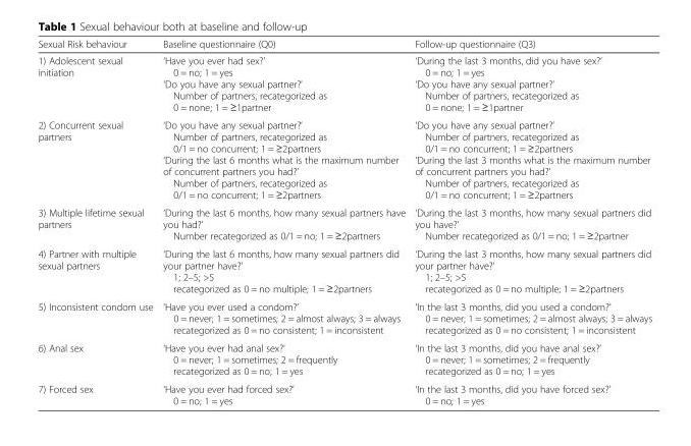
<table><thead><tr><td>Sexual Risk behaviour</td><td>Baseline questionnaire (Q0)</td><td>Follow-up questionnaire (Q3)</td></tr></thead><tbody><tr><td>1) Adolescent sexual initiation</td><td>‘Have you ever had sex?’ 0 = no; 1 = yes ‘Do you have any sexual partner?’ Number of partners, recategorized as 0 = none; 1 = ≥1partner</td><td>‘During the last 3 months, did you have sex?’ 0 = no; 1 = yes ‘Do you have any sexual partner?’ Number of partners, recategorized as 0 = none; 1 = ≥1partner</td></tr><tr><td>2) Concurrent sexual partners</td><td>‘Do you have any sexual partner?’ Number of partners, recategorized as 0/1 = no concurrent; 1 = ≥2partners ‘During the last 6 months what is the maximum number of concurrent partners you had?’ Number of partners, recategorized as 0/1 = no concurrent; 1 = ≥2partners</td><td>‘Do you have any sexual partner?’ Number of partners, recategorized as 0/1 = no concurrent; 1 = ≥2partners ‘During the last 3 months what is the maximum number of concurrent partners you had?’ Number of partners, recategorized as 0/1 = no concurrent; 1 = ≥2partners</td></tr><tr><td>3) Multiple lifetime sexual partners</td><td>‘During the last 6 months, how many sexual partners have you had?’ Number recategorized as 0/1 = no; 1 = ≥2partners</td><td>‘During the last 3 months, how many sexual partners did you have?’ Number recategorized as 0/1 = no; 1 = ≥2partner</td></tr><tr><td>4) Partner with multiple sexual partners</td><td>‘During the last 6 months, how many sexual partners did your partner have?’ 1; 2–5; &gt;5 recategorized as 0 = no multiple; 1 = ≥2partners</td><td>‘During the last 3 months, how many sexual partners did your partner have?’ 1; 2–5; &gt;5 recategorized as 0 = no multiple; 1 = ≥2partners</td></tr><tr><td>5) Inconsistent condom use</td><td>‘Have you ever used a condom?’ 0 = never; 1 = sometimes; 2 = almost always; 3 = always recategorized as 0 = no consistent; 1 = inconsistent</td><td>‘In the last 3 months, did you used a condom?’ 0 = never; 1 = sometimes; 2 = almost always; 3 = always recategorized as 0 = no consistent; 1 = inconsistent</td></tr><tr><td>6) Anal sex</td><td>‘Have you ever had anal sex?’ 0 = never; 1 = sometimes; 2 = frequently recategorized as 0 = no; 1 = yes</td><td>‘In the last 3 months, did you have anal sex?’ 0 = never; 1 = sometimes; 2 = frequently recategorized as 0 = no; 1 = yes</td></tr><tr><td>7) Forced sex</td><td>‘Have you ever had forced sex?’ 0 = no; 1 = yes</td><td>‘In the last 3 months, did you have forced sex?’ 0 = no; 1 = yes</td></tr></tbody></table>